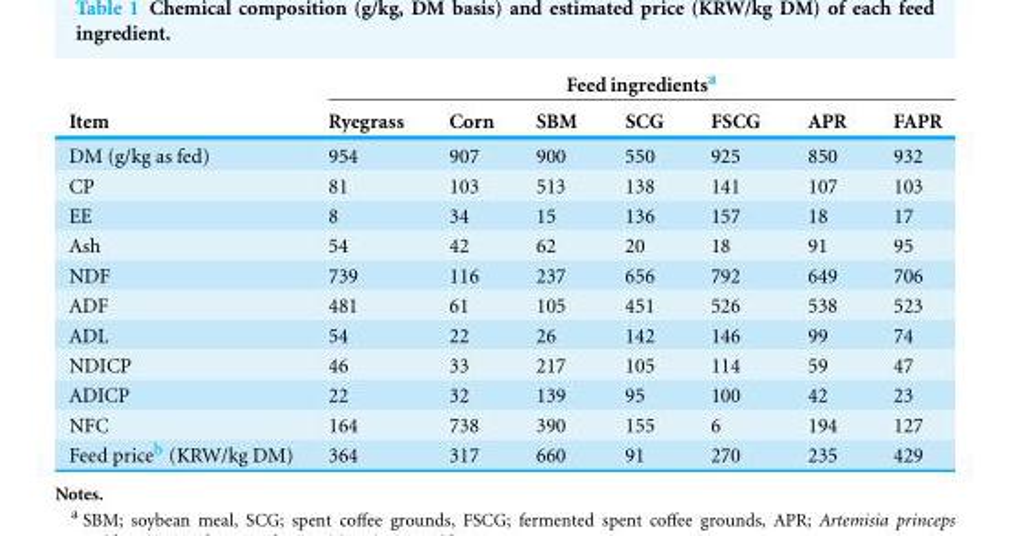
<table><thead><tr><td rowspan="2">Item</td><td colspan="7">Feed ingredients<sup>a</sup></td></tr><tr><td>Ryegrass</td><td>Corn</td><td>SBM</td><td>SCG</td><td>FSCG</td><td>APR</td><td>FAPR</td></tr></thead><tbody><tr><td>DM (g/kg as fed)</td><td>954</td><td>907</td><td>900</td><td>550</td><td>925</td><td>850</td><td>932</td></tr><tr><td>CP</td><td>81</td><td>103</td><td>513</td><td>138</td><td>141</td><td>107</td><td>103</td></tr><tr><td>EE</td><td>8</td><td>34</td><td>15</td><td>136</td><td>157</td><td>18</td><td>17</td></tr><tr><td>Ash</td><td>54</td><td>42</td><td>62</td><td>20</td><td>18</td><td>91</td><td>95</td></tr><tr><td>NDF</td><td>739</td><td>116</td><td>237</td><td>656</td><td>792</td><td>649</td><td>706</td></tr><tr><td>ADF</td><td>481</td><td>61</td><td>105</td><td>451</td><td>526</td><td>538</td><td>523</td></tr><tr><td>ADL</td><td>54</td><td>22</td><td>26</td><td>142</td><td>146</td><td>99</td><td>74</td></tr><tr><td>NDICP</td><td>46</td><td>33</td><td>217</td><td>105</td><td>114</td><td>59</td><td>47</td></tr><tr><td>ADICP</td><td>22</td><td>32</td><td>139</td><td>95</td><td>100</td><td>42</td><td>23</td></tr><tr><td>NFC</td><td>164</td><td>738</td><td>390</td><td>155</td><td>6</td><td>194</td><td>127</td></tr><tr><td>Feed price<sup>b</sup> (KRW/kg DM)</td><td>364</td><td>317</td><td>660</td><td>91</td><td>270</td><td>235</td><td>429</td></tr></tbody></table>